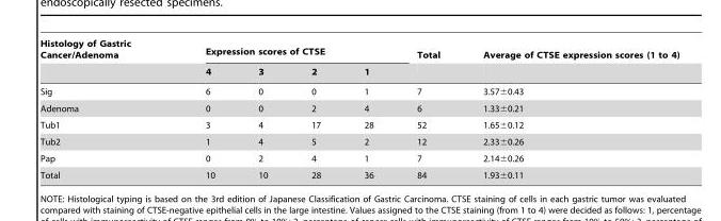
<table><thead><tr><td rowspan="2">Histology of Gastric Cancer/Adenoma</td><td colspan="4">Expression scores of CTSE</td><td rowspan="2">Total</td><td rowspan="2">Average of CTSE expression scores (1 to 4)</td></tr><tr><td>4</td><td>3</td><td>2</td><td>1</td></tr></thead><tbody><tr><td>Sig</td><td>6</td><td>0</td><td>0</td><td>1</td><td>7</td><td>3.57±0.43</td></tr><tr><td>Adenoma</td><td>0</td><td>0</td><td>2</td><td>4</td><td>6</td><td>1.33±0.21</td></tr><tr><td>Tub1</td><td>3</td><td>4</td><td>17</td><td>28</td><td>52</td><td>1.65±0.12</td></tr><tr><td>Tub2</td><td>1</td><td>4</td><td>5</td><td>2</td><td>12</td><td>2.33±0.26</td></tr><tr><td>Pap</td><td>0</td><td>2</td><td>4</td><td>1</td><td>7</td><td>2.14±0.26</td></tr><tr><td>Total</td><td>10</td><td>10</td><td>28</td><td>36</td><td>84</td><td>1.93±0.11</td></tr></tbody></table>